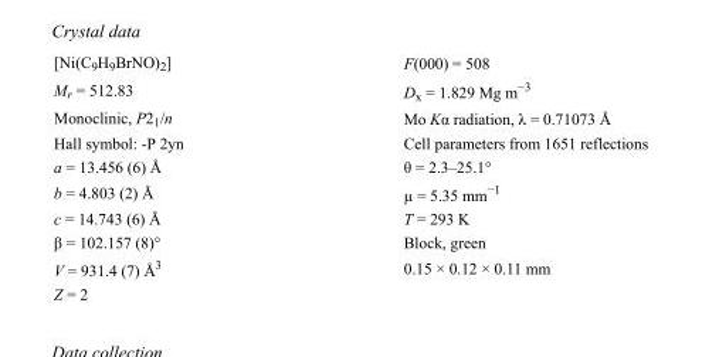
<table><tbody><tr><td>[Ni(C<sub>9</sub>H<sub>9</sub>BrNO)<sub>2</sub>]</td><td>F(000) = 508</td></tr><tr><td>M<sub>r</sub> = 512.83</td><td>D<sub>x</sub> = 1.829 Mg m<sup>−3</sup></td></tr><tr><td>Monoclinic, P2<sub>1</sub>/n</td><td>Mo Kα radiation, λ = 0.71073 Å</td></tr><tr><td>Hall symbol: -P 2yn</td><td>Cell parameters from 1651 reflections</td></tr><tr><td>a = 13.456 (6) Å</td><td>θ = 2.3–25.1°</td></tr><tr><td>b = 4.803 (2) Å</td><td>µ = 5.35 mm<sup>−1</sup></td></tr><tr><td>c = 14.743 (6) Å</td><td>T = 293 K</td></tr><tr><td>β = 102.157 (8)°</td><td>Block, green</td></tr><tr><td>V = 931.4 (7) Å<sup>3</sup></td><td>0.15 × 0.12 × 0.11 mm</td></tr><tr><td>Z = 2</td><td></td></tr></tbody></table>